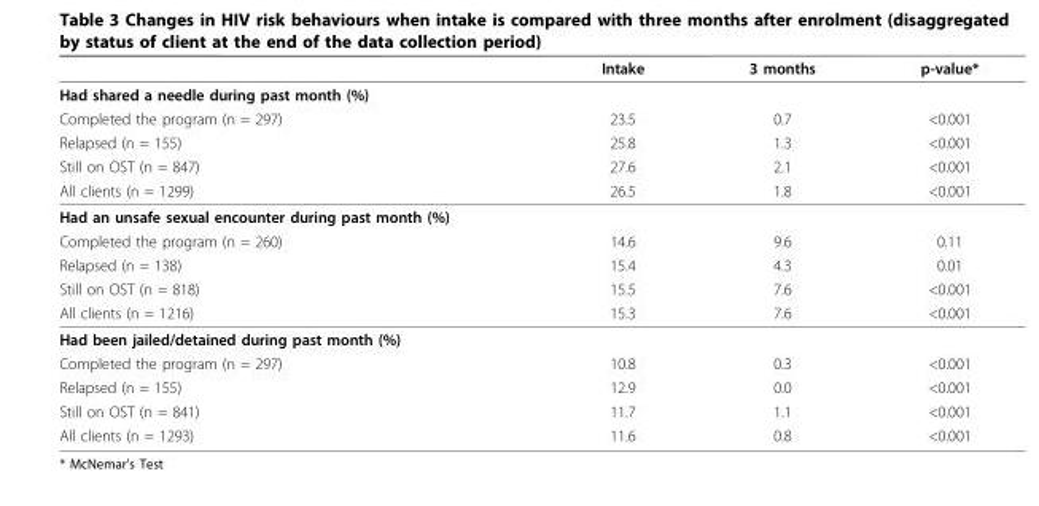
<table><thead><tr><td></td><td>Intake</td><td>3 months</td><td>p-value*</td></tr></thead><tbody><tr><td colspan="4">Had shared a needle during past month (%)</td></tr><tr><td>Completed the program (n = 297)</td><td>23.5</td><td>0.7</td><td>&lt;0.001</td></tr><tr><td>Relapsed (n = 155)</td><td>25.8</td><td>1.3</td><td>&lt;0.001</td></tr><tr><td>Still on OST (n = 847)</td><td>27.6</td><td>2.1</td><td>&lt;0.001</td></tr><tr><td>All clients (n = 1299)</td><td>26.5</td><td>1.8</td><td>&lt;0.001</td></tr><tr><td colspan="4">Had an unsafe sexual encounter during past month (%)</td></tr><tr><td>Completed the program (n = 260)</td><td>14.6</td><td>9.6</td><td>0.11</td></tr><tr><td>Relapsed (n = 138)</td><td>15.4</td><td>4.3</td><td>0.01</td></tr><tr><td>Still on OST (n = 818)</td><td>15.5</td><td>7.6</td><td>&lt;0.001</td></tr><tr><td>All clients (n = 1216)</td><td>15.3</td><td>7.6</td><td>&lt;0.001</td></tr><tr><td colspan="4">Had been jailed/detained during past month (%)</td></tr><tr><td>Completed the program (n = 297)</td><td>10.8</td><td>0.3</td><td>&lt;0.001</td></tr><tr><td>Relapsed (n = 155)</td><td>12.9</td><td>0.0</td><td>&lt;0.001</td></tr><tr><td>Still on OST (n = 841)</td><td>11.7</td><td>1.1</td><td>&lt;0.001</td></tr><tr><td>All clients (n = 1293)</td><td>11.6</td><td>0.8</td><td>&lt;0.001</td></tr></tbody></table>